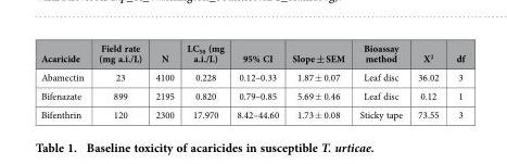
<table><thead><tr><td>Acaricide</td><td>Field rate (mg a.i./L)</td><td>N</td><td>LC<sub>50</sub> (mg a.i./L)</td><td>95% CI</td><td>Slope ± SEM</td><td>Bioassay method</td><td>X<sup>2</sup></td><td>df</td></tr></thead><tbody><tr><td>Abamectin</td><td>23</td><td>4100</td><td>0.228</td><td>0.12–0.33</td><td>1.87 ± 0.07</td><td>Leaf disc</td><td>36.02</td><td>3</td></tr><tr><td>Bifenazate</td><td>899</td><td>2195</td><td>0.820</td><td>0.79–0.85</td><td>5.69 ± 0.46</td><td>Leaf disc</td><td>0.12</td><td>1</td></tr><tr><td>Bifenthrin</td><td>120</td><td>2300</td><td>17.970</td><td>8.42–44.60</td><td>1.73 ± 0.08</td><td>Sticky tape</td><td>73.55</td><td>3</td></tr></tbody></table>